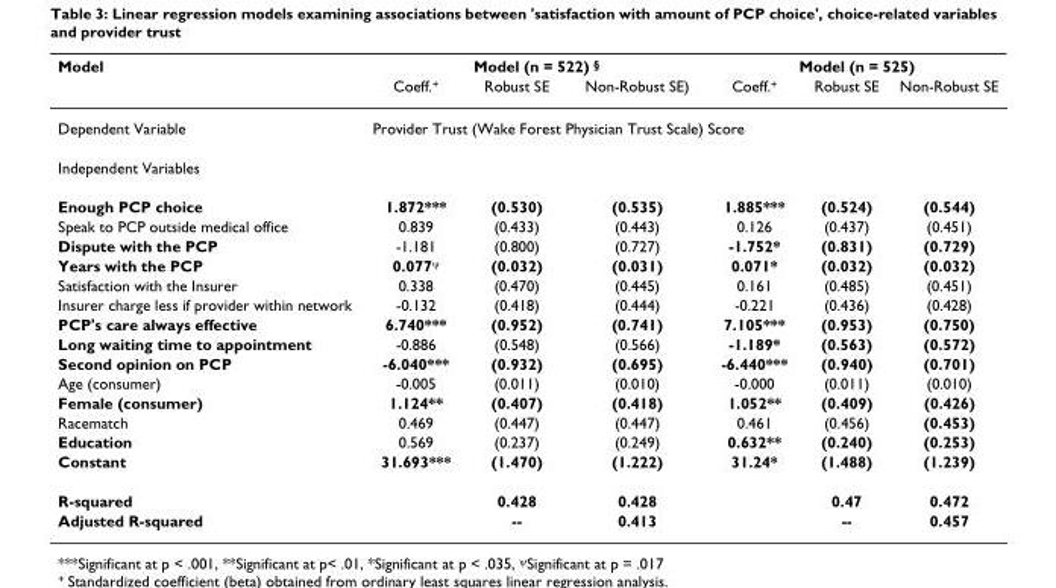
<table><thead><tr><td rowspan="2">Model</td><td colspan="3">Model (n = 522) §</td><td colspan="3">Model (n = 525)</td></tr><tr><td>Coeff.+</td><td>Robust SE</td><td>Non-Robust SE)</td><td>Coeff.+</td><td>Robust SE</td><td>Non-Robust SE</td></tr></thead><tbody><tr><td>Dependent Variable</td><td colspan="6">Provider Trust (Wake Forest Physician Trust Scale) Score</td></tr><tr><td colspan="7">Independent Variables</td></tr><tr><td>Enough PCP choice</td><td>1.872***</td><td>(0.530)</td><td>(0.535)</td><td>1.885***</td><td>(0.524)</td><td>(0.544)</td></tr><tr><td>Speak to PCP outside medical office</td><td>0.839</td><td>(0.433)</td><td>(0.443)</td><td>0.126</td><td>(0.437)</td><td>(0.451)</td></tr><tr><td>Dispute with the PCP</td><td>-1.181</td><td>(0.800)</td><td>(0.727)</td><td>-1.752*</td><td>(0.831)</td><td>(0.729)</td></tr><tr><td>Years with the PCP</td><td>0.077ψ</td><td>(0.032)</td><td>(0.031)</td><td>0.071*</td><td>(0.032)</td><td>(0.032)</td></tr><tr><td>Satisfaction with the Insurer</td><td>0.338</td><td>(0.470)</td><td>(0.445)</td><td>0.161</td><td>(0.485)</td><td>(0.451)</td></tr><tr><td>Insurer charge less if provider within network</td><td>-0.132</td><td>(0.418)</td><td>(0.444)</td><td>-0.221</td><td>(0.436)</td><td>(0.428)</td></tr><tr><td>PCP&#x27;s care always effective</td><td>6.740***</td><td>(0.952)</td><td>(0.741)</td><td>7.105***</td><td>(0.953)</td><td>(0.750)</td></tr><tr><td>Long waiting time to appointment</td><td>-0.886</td><td>(0.548)</td><td>(0.566)</td><td>-1.189*</td><td>(0.563)</td><td>(0.572)</td></tr><tr><td>Second opinion on PCP</td><td>-6.040***</td><td>(0.932)</td><td>(0.695)</td><td>-6.440***</td><td>(0.940)</td><td>(0.701)</td></tr><tr><td>Age (consumer)</td><td>-0.005</td><td>(0.011)</td><td>(0.010)</td><td>-0.000</td><td>(0.011)</td><td>(0.010)</td></tr><tr><td>Female (consumer)</td><td>1.124**</td><td>(0.407)</td><td>(0.418)</td><td>1.052**</td><td>(0.409)</td><td>(0.426)</td></tr><tr><td>Racematch</td><td>0.469</td><td>(0.447)</td><td>(0.447)</td><td>0.461</td><td>(0.456)</td><td>(0.453)</td></tr><tr><td>Education</td><td>0.569</td><td>(0.237)</td><td>(0.249)</td><td>0.632**</td><td>(0.240)</td><td>(0.253)</td></tr><tr><td>Constant</td><td>31.693***</td><td>(1.470)</td><td>(1.222)</td><td>31.24*</td><td>(1.488)</td><td>(1.239)</td></tr><tr><td>R-squared</td><td></td><td>0.428</td><td>0.428</td><td></td><td>0.47</td><td>0.472</td></tr><tr><td>Adjusted R-squared</td><td></td><td>--</td><td>0.413</td><td></td><td>--</td><td>0.457</td></tr></tbody></table>